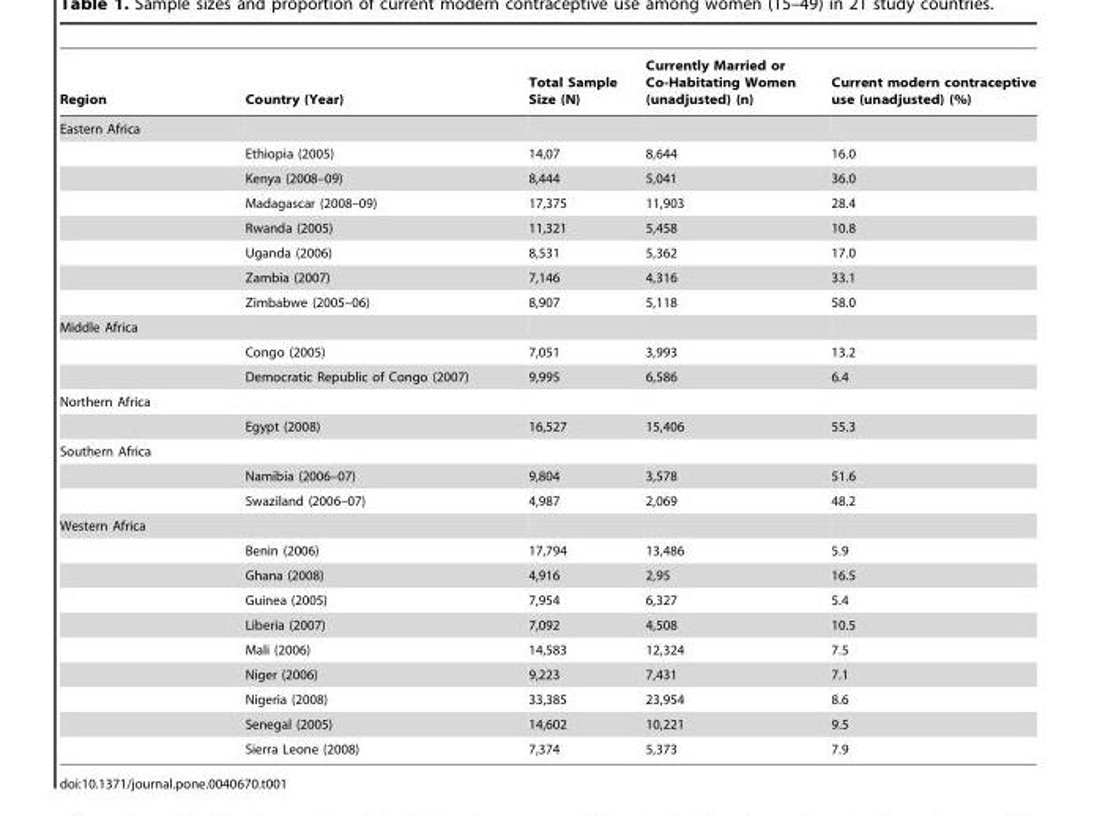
<table><thead><tr><td>Region</td><td>Country (Year)</td><td>Total Sample Size (N)</td><td>Currently Married or Co-Habitating Women (unadjusted) (n)</td><td>Current modern contraceptive use (unadjusted) (%)</td></tr></thead><tbody><tr><td colspan="5">Eastern Africa</td></tr><tr><td></td><td>Ethiopia (2005)</td><td>14,07</td><td>8,644</td><td>16.0</td></tr><tr><td></td><td>Kenya (2008–09)</td><td>8,444</td><td>5,041</td><td>36.0</td></tr><tr><td></td><td>Madagascar (2008–09)</td><td>17,375</td><td>11,903</td><td>28.4</td></tr><tr><td></td><td>Rwanda (2005)</td><td>11,321</td><td>5,458</td><td>10.8</td></tr><tr><td></td><td>Uganda (2006)</td><td>8,531</td><td>5,362</td><td>17.0</td></tr><tr><td></td><td>Zambia (2007)</td><td>7,146</td><td>4,316</td><td>33.1</td></tr><tr><td></td><td>Zimbabwe (2005–06)</td><td>8,907</td><td>5,118</td><td>58.0</td></tr><tr><td colspan="5">Middle Africa</td></tr><tr><td></td><td>Congo (2005)</td><td>7,051</td><td>3,993</td><td>13.2</td></tr><tr><td></td><td>Democratic Republic of Congo (2007)</td><td>9,995</td><td>6,586</td><td>6.4</td></tr><tr><td colspan="5">Northern Africa</td></tr><tr><td></td><td>Egypt (2008)</td><td>16,527</td><td>15,406</td><td>55.3</td></tr><tr><td colspan="5">Southern Africa</td></tr><tr><td></td><td>Namibia (2006–07)</td><td>9,804</td><td>3,578</td><td>51.6</td></tr><tr><td></td><td>Swaziland (2006–07)</td><td>4,987</td><td>2,069</td><td>48.2</td></tr><tr><td colspan="5">Western Africa</td></tr><tr><td></td><td>Benin (2006)</td><td>17,794</td><td>13,486</td><td>5.9</td></tr><tr><td></td><td>Ghana (2008)</td><td>4,916</td><td>2,95</td><td>16.5</td></tr><tr><td></td><td>Guinea (2005)</td><td>7,954</td><td>6,327</td><td>5.4</td></tr><tr><td></td><td>Liberia (2007)</td><td>7,092</td><td>4,508</td><td>10.5</td></tr><tr><td></td><td>Mali (2006)</td><td>14,583</td><td>12,324</td><td>7.5</td></tr><tr><td></td><td>Niger (2006)</td><td>9,223</td><td>7,431</td><td>7.1</td></tr><tr><td></td><td>Nigeria (2008)</td><td>33,385</td><td>23,954</td><td>8.6</td></tr><tr><td></td><td>Senegal (2005)</td><td>14,602</td><td>10,221</td><td>9.5</td></tr><tr><td></td><td>Sierra Leone (2008)</td><td>7,374</td><td>5,373</td><td>7.9</td></tr></tbody></table>